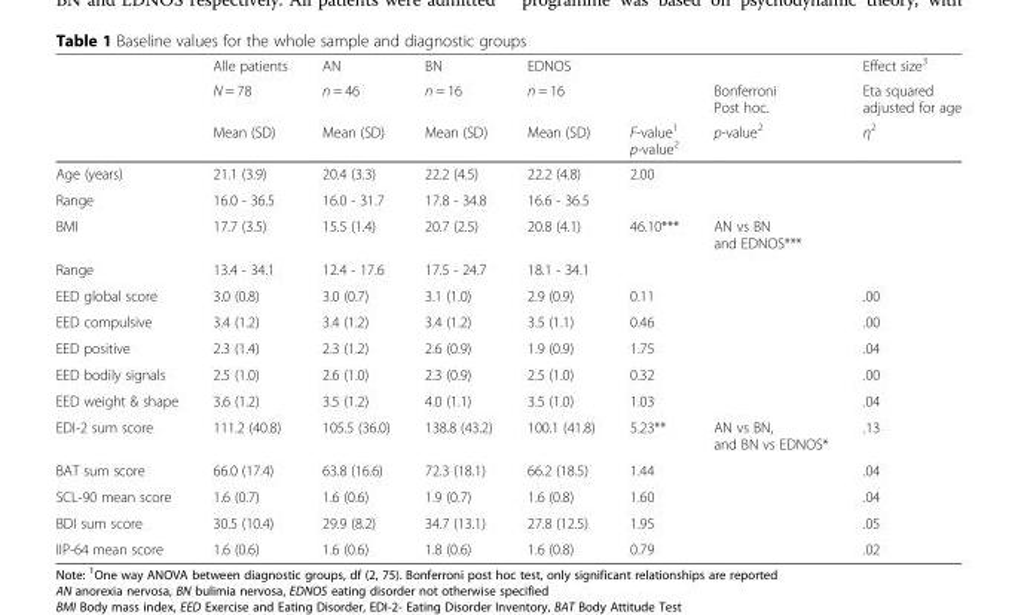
<table><thead><tr><td rowspan="3"></td><td rowspan="3">Alle patients N = 78 Mean (SD)</td><td rowspan="3">AN n = 46 Mean (SD)</td><td rowspan="3">BN n = 16 Mean (SD)</td><td rowspan="3">EDNOS n = 16 Mean (SD)</td><td rowspan="3">F-value<sup>1</sup> p-value<sup>2</sup></td><td rowspan="3">Bonferroni Post hoc. p-value<sup>2</sup></td><td rowspan="3">Effect size<sup>3</sup> Eta squared adjusted for age η<sup>2</sup></td></tr><tr></tr><tr></tr></thead><tbody><tr><td>Age (years)</td><td>21.1 (3.9)</td><td>20.4 (3.3)</td><td>22.2 (4.5)</td><td>22.2 (4.8)</td><td>2.00</td><td></td><td></td></tr><tr><td>Range</td><td>16.0 - 36.5</td><td>16.0 - 31.7</td><td>17.8 - 34.8</td><td>16.6 - 36.5</td><td></td><td></td><td></td></tr><tr><td>BMI</td><td>17.7 (3.5)</td><td>15.5 (1.4)</td><td>20.7 (2.5)</td><td>20.8 (4.1)</td><td>46.10***</td><td>AN vs BN and EDNOS***</td><td></td></tr><tr><td>Range</td><td>13.4 - 34.1</td><td>12.4 - 17.6</td><td>17.5 - 24.7</td><td>18.1 - 34.1</td><td></td><td></td><td></td></tr><tr><td>EED global score</td><td>3.0 (0.8)</td><td>3.0 (0.7)</td><td>3.1 (1.0)</td><td>2.9 (0.9)</td><td>0.11</td><td></td><td>.00</td></tr><tr><td>EED compulsive</td><td>3.4 (1.2)</td><td>3.4 (1.2)</td><td>3.4 (1.2)</td><td>3.5 (1.1)</td><td>0.46</td><td></td><td>.00</td></tr><tr><td>EED positive</td><td>2.3 (1.4)</td><td>2.3 (1.2)</td><td>2.6 (0.9)</td><td>1.9 (0.9)</td><td>1.75</td><td></td><td>.04</td></tr><tr><td>EED bodily signals</td><td>2.5 (1.0)</td><td>2.6 (1.0)</td><td>2.3 (0.9)</td><td>2.5 (1.0)</td><td>0.32</td><td></td><td>.00</td></tr><tr><td>EED weight &amp; shape</td><td>3.6 (1.2)</td><td>3.5 (1.2)</td><td>4.0 (1.1)</td><td>3.5 (1.0)</td><td>1.03</td><td></td><td>.04</td></tr><tr><td>EDI-2 sum score</td><td>111.2 (40.8)</td><td>105.5 (36.0)</td><td>138.8 (43.2)</td><td>100.1 (41.8)</td><td>5.23**</td><td>AN vs BN, and BN vs EDNOS*</td><td>.13</td></tr><tr><td>BAT sum score</td><td>66.0 (17.4)</td><td>63.8 (16.6)</td><td>72.3 (18.1)</td><td>66.2 (18.5)</td><td>1.44</td><td></td><td>.04</td></tr><tr><td>SCL-90 mean score</td><td>1.6 (0.7)</td><td>1.6 (0.6)</td><td>1.9 (0.7)</td><td>1.6 (0.8)</td><td>1.60</td><td></td><td>.04</td></tr><tr><td>BDI sum score</td><td>30.5 (10.4)</td><td>29.9 (8.2)</td><td>34.7 (13.1)</td><td>27.8 (12.5)</td><td>1.95</td><td></td><td>.05</td></tr><tr><td>IIP-64 mean score</td><td>1.6 (0.6)</td><td>1.6 (0.6)</td><td>1.8 (0.6)</td><td>1.6 (0.8)</td><td>0.79</td><td></td><td>.02</td></tr></tbody></table>